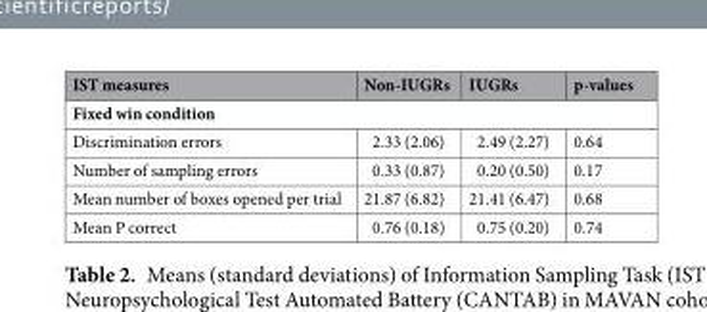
<table><thead><tr><td>IST measures</td><td>Non-IUGRs</td><td>IUGRs</td><td>p-values</td></tr></thead><tbody><tr><td colspan="4">Fixed win condition</td></tr><tr><td>Discrimination errors</td><td>2.33 (2.06)</td><td>2.49 (2.27)</td><td>0.64</td></tr><tr><td>Number of sampling errors</td><td>0.33 (0.87)</td><td>0.20 (0.50)</td><td>0.17</td></tr><tr><td>Mean number of boxes opened per trial</td><td>21.87 (6.82)</td><td>21.41 (6.47)</td><td>0.68</td></tr><tr><td>Mean P correct</td><td>0.76 (0.18)</td><td>0.75 (0.20)</td><td>0.74</td></tr></tbody></table>